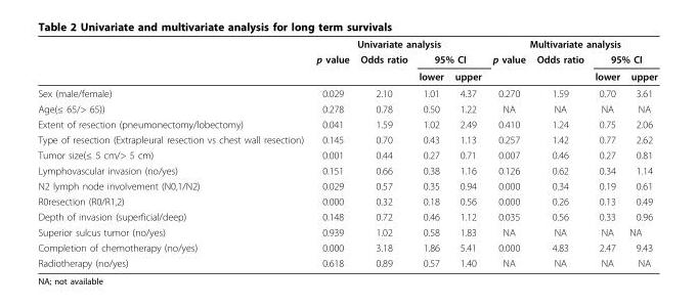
<table><thead><tr><td rowspan="3"></td><td colspan="4">Univariate analysis</td><td colspan="4">Multivariate analysis</td></tr><tr><td rowspan="2">p value</td><td rowspan="2">Odds ratio</td><td colspan="2">95% CI</td><td rowspan="2">p value</td><td rowspan="2">Odds ratio</td><td colspan="2">95% CI</td></tr><tr><td>lower</td><td>upper</td><td>lower</td><td>upper</td></tr></thead><tbody><tr><td>Sex (male/female)</td><td>0.029</td><td>2.10</td><td>1.01</td><td>4.37</td><td>0.270</td><td>1.59</td><td>0.70</td><td>3.61</td></tr><tr><td>Age(≤ 65/&gt; 65))</td><td>0.278</td><td>0.78</td><td>0.50</td><td>1.22</td><td>NA</td><td>NA</td><td>NA</td><td>NA</td></tr><tr><td>Extent of resection (pneumonectomy/lobectomy)</td><td>0.041</td><td>1.59</td><td>1.02</td><td>2.49</td><td>0.410</td><td>1.24</td><td>0.75</td><td>2.06</td></tr><tr><td>Type of resection (Extrapleural resection vs chest wall resection)</td><td>0.145</td><td>0.70</td><td>0.43</td><td>1.13</td><td>0.257</td><td>1.42</td><td>0.77</td><td>2.62</td></tr><tr><td>Tumor size(≤ 5 cm/&gt; 5 cm)</td><td>0.001</td><td>0.44</td><td>0.27</td><td>0.71</td><td>0.007</td><td>0.46</td><td>0.27</td><td>0.81</td></tr><tr><td>Lymphovascular invasion (no/yes)</td><td>0.151</td><td>0.66</td><td>0.38</td><td>1.16</td><td>0.126</td><td>0.62</td><td>0.34</td><td>1.14</td></tr><tr><td>N2 lymph node involvement (N0,1/N2)</td><td>0.029</td><td>0.57</td><td>0.35</td><td>0.94</td><td>0.000</td><td>0.34</td><td>0.19</td><td>0.61</td></tr><tr><td>R0resection (R0/R1,2)</td><td>0.000</td><td>0.32</td><td>0.18</td><td>0.56</td><td>0.000</td><td>0.26</td><td>0.13</td><td>0.49</td></tr><tr><td>Depth of invasion (superficial/deep)</td><td>0.148</td><td>0.72</td><td>0.46</td><td>1.12</td><td>0.035</td><td>0.56</td><td>0.33</td><td>0.96</td></tr><tr><td>Superior sulcus tumor (no/yes)</td><td>0.939</td><td>1.02</td><td>0.58</td><td>1.83</td><td>NA</td><td>NA</td><td>NA</td><td>NA</td></tr><tr><td>Completion of chemotherapy (no/yes)</td><td>0.000</td><td>3.18</td><td>1.86</td><td>5.41</td><td>0.000</td><td>4.83</td><td>2.47</td><td>9.43</td></tr><tr><td>Radiotherapy (no/yes)</td><td>0.618</td><td>0.89</td><td>0.57</td><td>1.40</td><td>NA</td><td>NA</td><td>NA</td><td>NA</td></tr></tbody></table>